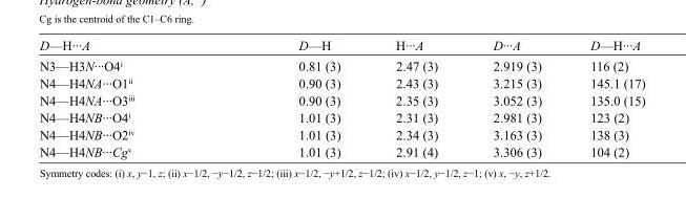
<table><tbody><tr><td>D—H···A</td><td>D—H</td><td>H···A</td><td>D···A</td><td>D—H···A</td></tr><tr><td>N3—H3N···O4<sup>i</sup></td><td>0.81 (3)</td><td>2.47 (3)</td><td>2.919 (3)</td><td>116 (2)</td></tr><tr><td>N4—H4NA···O1<sup>ii</sup></td><td>0.90 (3)</td><td>2.43 (3)</td><td>3.215 (3)</td><td>145.1 (17)</td></tr><tr><td>N4—H4NA···O3<sup>iii</sup></td><td>0.90 (3)</td><td>2.35 (3)</td><td>3.052 (3)</td><td>135.0 (15)</td></tr><tr><td>N4—H4NB···O4<sup>i</sup></td><td>1.01 (3)</td><td>2.31 (3)</td><td>2.981 (3)</td><td>123 (2)</td></tr><tr><td>N4—H4NB···O2<sup>iv</sup></td><td>1.01 (3)</td><td>2.34 (3)</td><td>3.163 (3)</td><td>138 (3)</td></tr><tr><td>N4—H4NB···Cg<sup>v</sup></td><td>1.01 (3)</td><td>2.91 (4)</td><td>3.306 (3)</td><td>104 (2)</td></tr></tbody></table>